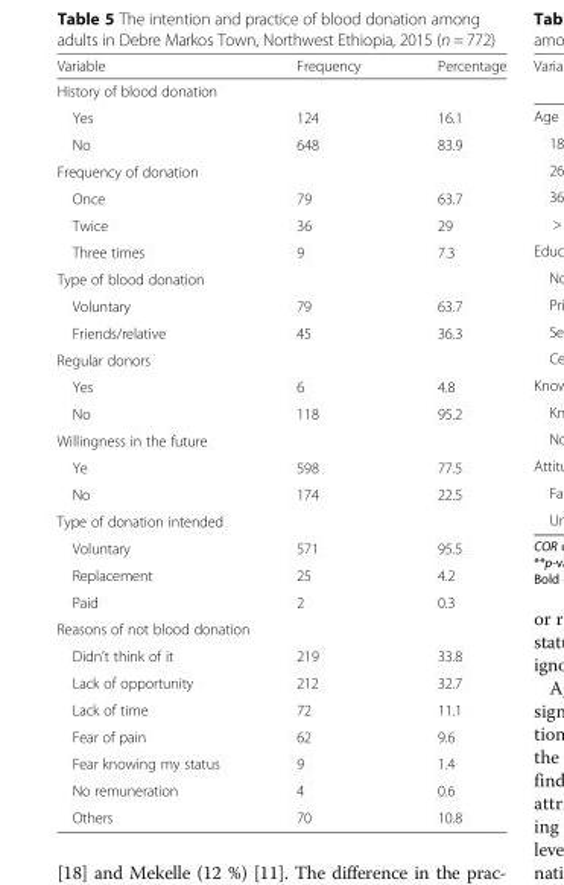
<table><thead><tr><td>Variable</td><td>Frequency</td><td>Percentage</td></tr></thead><tbody><tr><td colspan="3">History of blood donation</td></tr><tr><td>Yes</td><td>124</td><td>16.1</td></tr><tr><td>No</td><td>648</td><td>83.9</td></tr><tr><td colspan="3">Frequency of donation</td></tr><tr><td>Once</td><td>79</td><td>63.7</td></tr><tr><td>Twice</td><td>36</td><td>29</td></tr><tr><td>Three times</td><td>9</td><td>7.3</td></tr><tr><td colspan="3">Type of blood donation</td></tr><tr><td>Voluntary</td><td>79</td><td>63.7</td></tr><tr><td>Friends/relative</td><td>45</td><td>36.3</td></tr><tr><td colspan="3">Regular donors</td></tr><tr><td>Yes</td><td>6</td><td>4.8</td></tr><tr><td>No</td><td>118</td><td>95.2</td></tr><tr><td colspan="3">Willingness in the future</td></tr><tr><td>Ye</td><td>598</td><td>77.5</td></tr><tr><td>No</td><td>174</td><td>22.5</td></tr><tr><td colspan="3">Type of donation intended</td></tr><tr><td>Voluntary</td><td>571</td><td>95.5</td></tr><tr><td>Replacement</td><td>25</td><td>4.2</td></tr><tr><td>Paid</td><td>2</td><td>0.3</td></tr><tr><td colspan="3">Reasons of not blood donation</td></tr><tr><td>Didn’t think of it</td><td>219</td><td>33.8</td></tr><tr><td>Lack of opportunity</td><td>212</td><td>32.7</td></tr><tr><td>Lack of time</td><td>72</td><td>11.1</td></tr><tr><td>Fear of pain</td><td>62</td><td>9.6</td></tr><tr><td>Fear knowing my status</td><td>9</td><td>1.4</td></tr><tr><td>No remuneration</td><td>4</td><td>0.6</td></tr><tr><td>Others</td><td>70</td><td>10.8</td></tr></tbody></table>